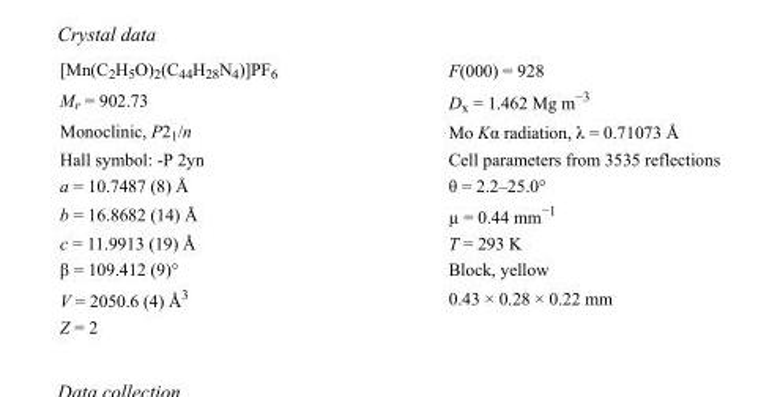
<table><tbody><tr><td>[Mn(C<sub>2</sub>H<sub>5</sub>O)<sub>2</sub>(C<sub>44</sub>H<sub>28</sub>N<sub>4</sub>)]PF<sub>6</sub></td><td>F(000) = 928</td></tr><tr><td>M<sub>r</sub> = 902.73</td><td>D<sub>x</sub> = 1.462 Mg m<sup>−3</sup></td></tr><tr><td>Monoclinic, P2<sub>1</sub>/n</td><td>Mo Kα radiation, λ = 0.71073 Å</td></tr><tr><td>Hall symbol: -P 2yn</td><td>Cell parameters from 3535 reflections</td></tr><tr><td>a = 10.7487 (8) Å</td><td>θ = 2.2–25.0°</td></tr><tr><td>b = 16.8682 (14) Å</td><td>µ = 0.44 mm<sup>−1</sup></td></tr><tr><td>c = 11.9913 (19) Å</td><td>T = 293 K</td></tr><tr><td>β = 109.412 (9)°</td><td>Block, yellow</td></tr><tr><td>V = 2050.6 (4) Å<sup>3</sup></td><td>0.43 × 0.28 × 0.22 mm</td></tr><tr><td>Z = 2</td><td></td></tr></tbody></table>